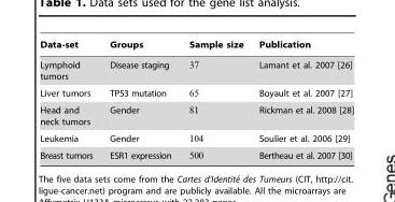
<table><thead><tr><td>Data-set</td><td>Groups</td><td>Sample size</td><td>Publication</td></tr></thead><tbody><tr><td>Lymphoid tumors</td><td>Disease staging</td><td>37</td><td>Lamant et al. 2007 [26]</td></tr><tr><td>Liver tumors</td><td>TP53 mutation</td><td>65</td><td>Boyault et al. 2007 [27]</td></tr><tr><td>Head and neck tumors</td><td>Gender</td><td>81</td><td>Rickman et al. 2008 [28]</td></tr><tr><td>Leukemia</td><td>Gender</td><td>104</td><td>Soulier et al. 2006 [29]</td></tr><tr><td>Breast tumors</td><td>ESR1 expression</td><td>500</td><td>Bertheau et al. 2007 [30]</td></tr></tbody></table>